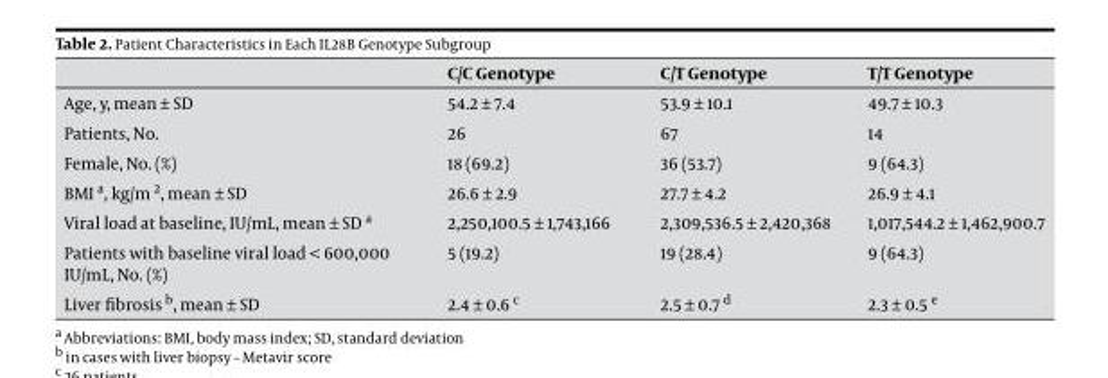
<table><thead><tr><td></td><td>C/C Genotype</td><td>C/T Genotype</td><td>T/T Genotype</td></tr></thead><tbody><tr><td>Age, y, mean ± SD</td><td>54.2 ± 7.4</td><td>53.9 ± 10.1</td><td>49.7 ± 10.3</td></tr><tr><td>Patients, No.</td><td>26</td><td>67</td><td>14</td></tr><tr><td>Female, No. (%)</td><td>18 (69.2)</td><td>36 (53.7)</td><td>9 (64.3)</td></tr><tr><td>BMI a, kg/m <sup>2</sup>, mean ± SD</td><td>26.6 ± 2.9</td><td>27.7 ± 4.2</td><td>26.9 ± 4.1</td></tr><tr><td>Viral load at baseline, IU/mL, mean ± SD a</td><td>2,250,100.5 ± 1,743,166</td><td>2,309,536.5 ± 2,420,368</td><td>1,017,544.2 ± 1,462,900.7</td></tr><tr><td>Patients with baseline viral load &lt; 600,000 IU/mL, No. (%)</td><td>5 (19.2)</td><td>19 (28.4)</td><td>9 (64.3)</td></tr><tr><td>Liver fibrosis b, mean ± SD</td><td>2.4 ± 0.6 c</td><td>2.5 ± 0.7 d</td><td>2.3 ± 0.5 e</td></tr></tbody></table>